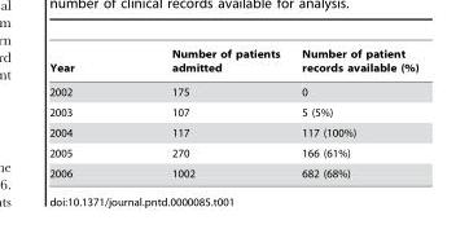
<table><thead><tr><td>Year</td><td>Number of patients admitted</td><td>Number of patient records available (%)</td></tr></thead><tbody><tr><td>2002</td><td>175</td><td>0</td></tr><tr><td>2003</td><td>107</td><td>5 (5%)</td></tr><tr><td>2004</td><td>117</td><td>117 (100%)</td></tr><tr><td>2005</td><td>270</td><td>166 (61%)</td></tr><tr><td>2006</td><td>1002</td><td>682 (68%)</td></tr></tbody></table>